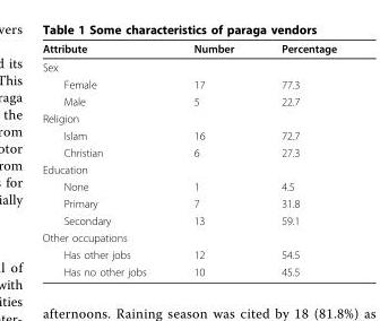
<table><thead><tr><td>Attribute</td><td>Number</td><td>Percentage</td></tr></thead><tbody><tr><td colspan="3">Sex</td></tr><tr><td>Female</td><td>17</td><td>77.3</td></tr><tr><td>Male</td><td>5</td><td>22.7</td></tr><tr><td colspan="3">Religion</td></tr><tr><td>Islam</td><td>16</td><td>72.7</td></tr><tr><td>Christian</td><td>6</td><td>27.3</td></tr><tr><td colspan="3">Education</td></tr><tr><td>None</td><td>1</td><td>4.5</td></tr><tr><td>Primary</td><td>7</td><td>31.8</td></tr><tr><td>Secondary</td><td>13</td><td>59.1</td></tr><tr><td colspan="3">Other occupations</td></tr><tr><td>Has other jobs</td><td>12</td><td>54.5</td></tr><tr><td>Has no other jobs</td><td>10</td><td>45.5</td></tr></tbody></table>